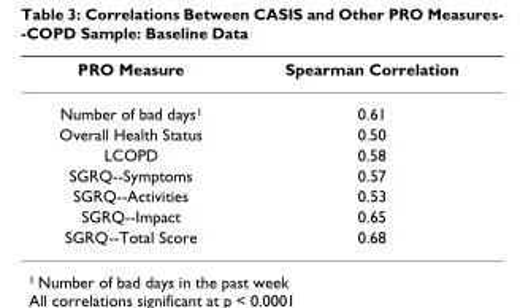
<table><thead><tr><td>PRO Measure</td><td>Spearman Correlation</td></tr></thead><tbody><tr><td>Number of bad days<sup>1</sup></td><td>0.61</td></tr><tr><td>Overall Health Status</td><td>0.50</td></tr><tr><td>LCOPD</td><td>0.58</td></tr><tr><td>SGRQ--Symptoms</td><td>0.57</td></tr><tr><td>SGRQ--Activities</td><td>0.53</td></tr><tr><td>SGRQ--Impact</td><td>0.65</td></tr><tr><td>SGRQ--Total Score</td><td>0.68</td></tr></tbody></table>